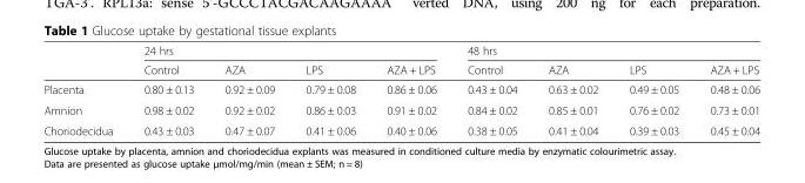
<table><thead><tr><td rowspan="2"></td><td colspan="4">24 hrs</td><td colspan="4">48 hrs</td></tr><tr><td>Control</td><td>AZA</td><td>LPS</td><td>AZA + LPS</td><td>Control</td><td>AZA</td><td>LPS</td><td>AZA + LPS</td></tr></thead><tbody><tr><td>Placenta</td><td>0.80 ± 0.13</td><td>0.92 ± 0.09</td><td>0.79 ± 0.08</td><td>0.86 ± 0.06</td><td>0.43 ± 0.04</td><td>0.63 ± 0.02</td><td>0.49 ± 0.05</td><td>0.48 ± 0.06</td></tr><tr><td>Amnion</td><td>0.98 ± 0.02</td><td>0.92 ± 0.02</td><td>0.86 ± 0.03</td><td>0.91 ± 0.02</td><td>0.84 ± 0.02</td><td>0.85 ± 0.01</td><td>0.76 ± 0.02</td><td>0.73 ± 0.01</td></tr><tr><td>Choriodecidua</td><td>0.43 ± 0.03</td><td>0.47 ± 0.07</td><td>0.41 ± 0.06</td><td>0.40 ± 0.06</td><td>0.38 ± 0.05</td><td>0.41 ± 0.04</td><td>0.39 ± 0.03</td><td>0.45 ± 0.04</td></tr></tbody></table>